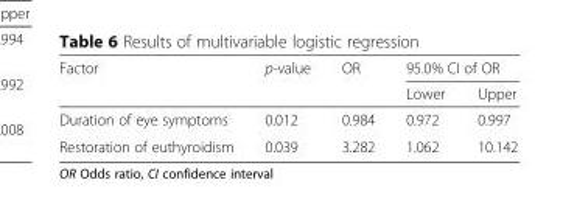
<table><thead><tr><td rowspan="2">Factor</td><td rowspan="2">p-value</td><td rowspan="2">OR</td><td colspan="2">95.0% CI of OR</td></tr><tr><td>Lower</td><td>Upper</td></tr></thead><tbody><tr><td>Duration of eye symptoms</td><td>0.012</td><td>0.984</td><td>0.972</td><td>0.997</td></tr><tr><td>Restoration of euthyroidism</td><td>0.039</td><td>3.282</td><td>1.062</td><td>10.142</td></tr></tbody></table>